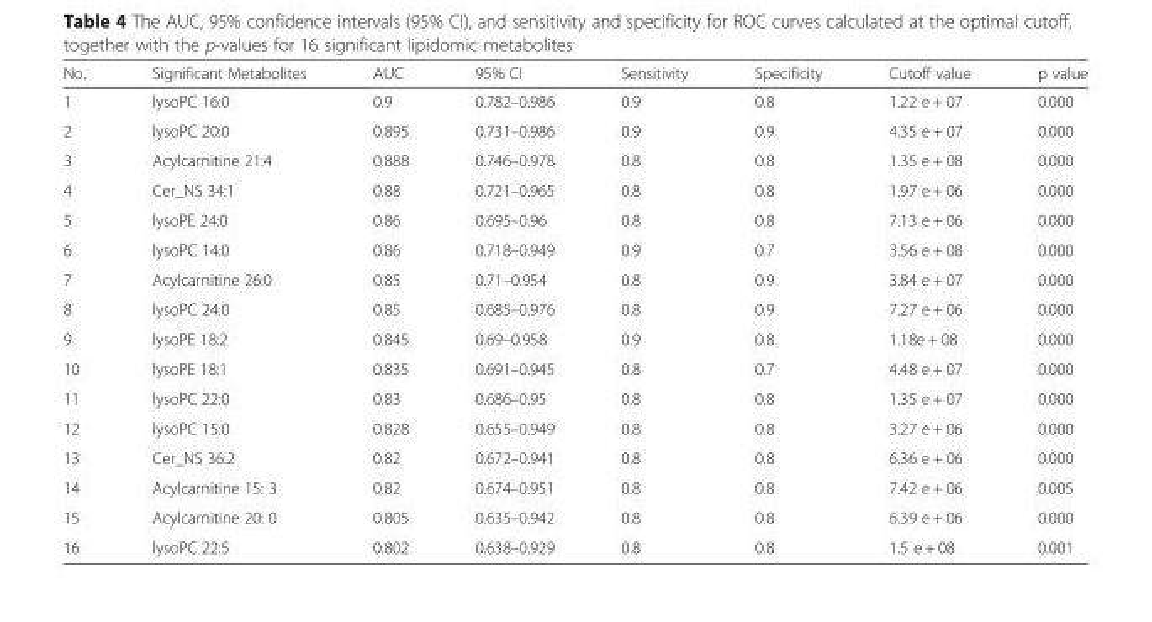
<table><thead><tr><td>No.</td><td>Significant Metabolites</td><td>AUC</td><td>95% CI</td><td>Sensitivity</td><td>Specificity</td><td>Cutoff value</td><td>p value</td></tr></thead><tbody><tr><td>1</td><td>lysoPC 16:0</td><td>0.9</td><td>0.782–0.986</td><td>0.9</td><td>0.8</td><td>1.22 e + 07</td><td>0.000</td></tr><tr><td>2</td><td>lysoPC 20:0</td><td>0.895</td><td>0.731–0.986</td><td>0.9</td><td>0.9</td><td>4.35 e + 07</td><td>0.000</td></tr><tr><td>3</td><td>Acylcarnitine 21:4</td><td>0.888</td><td>0.746–0.978</td><td>0.8</td><td>0.8</td><td>1.35 e + 08</td><td>0.000</td></tr><tr><td>4</td><td>Cer_NS 34:1</td><td>0.88</td><td>0.721–0.965</td><td>0.8</td><td>0.8</td><td>1.97 e + 06</td><td>0.000</td></tr><tr><td>5</td><td>lysoPE 24:0</td><td>0.86</td><td>0.695–0.96</td><td>0.8</td><td>0.8</td><td>7.13 e + 06</td><td>0.000</td></tr><tr><td>6</td><td>lysoPC 14:0</td><td>0.86</td><td>0.718–0.949</td><td>0.9</td><td>0.7</td><td>3.56 e + 08</td><td>0.000</td></tr><tr><td>7</td><td>Acylcarnitine 26:0</td><td>0.85</td><td>0.71–0.954</td><td>0.8</td><td>0.9</td><td>3.84 e + 07</td><td>0.000</td></tr><tr><td>8</td><td>lysoPC 24:0</td><td>0.85</td><td>0.685–0.976</td><td>0.8</td><td>0.9</td><td>7.27 e + 06</td><td>0.000</td></tr><tr><td>9</td><td>lysoPE 18:2</td><td>0.845</td><td>0.69–0.958</td><td>0.9</td><td>0.8</td><td>1.18e + 08</td><td>0.000</td></tr><tr><td>10</td><td>lysoPE 18:1</td><td>0.835</td><td>0.691–0.945</td><td>0.8</td><td>0.7</td><td>4.48 e + 07</td><td>0.000</td></tr><tr><td>11</td><td>lysoPC 22:0</td><td>0.83</td><td>0.686–0.95</td><td>0.8</td><td>0.8</td><td>1.35 e + 07</td><td>0.000</td></tr><tr><td>12</td><td>lysoPC 15:0</td><td>0.828</td><td>0.655–0.949</td><td>0.8</td><td>0.8</td><td>3.27 e + 06</td><td>0.000</td></tr><tr><td>13</td><td>Cer_NS 36:2</td><td>0.82</td><td>0.672–0.941</td><td>0.8</td><td>0.8</td><td>6.36 e + 06</td><td>0.000</td></tr><tr><td>14</td><td>Acylcarnitine 15: 3</td><td>0.82</td><td>0.674–0.951</td><td>0.8</td><td>0.8</td><td>7.42 e + 06</td><td>0.005</td></tr><tr><td>15</td><td>Acylcarnitine 20: 0</td><td>0.805</td><td>0.635–0.942</td><td>0.8</td><td>0.8</td><td>6.39 e + 06</td><td>0.000</td></tr><tr><td>16</td><td>lysoPC 22:5</td><td>0.802</td><td>0.638–0.929</td><td>0.8</td><td>0.8</td><td>1.5 e + 08</td><td>0.001</td></tr></tbody></table>